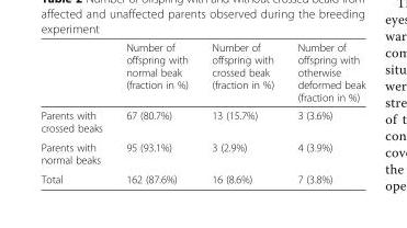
<table><thead><tr><td></td><td>Number of offspring with normal beak (fraction in %)</td><td>Number of offspring with crossed beak (fraction in %)</td><td>Number of offspring with otherwise deformed beak (fraction in %)</td></tr></thead><tbody><tr><td>Parents with crossed beaks</td><td>67 (80.7%)</td><td>13 (15.7%)</td><td>3 (3.6%)</td></tr><tr><td>Parents with normal beaks</td><td>95 (93.1%)</td><td>3 (2.9%)</td><td>4 (3.9%)</td></tr><tr><td>Total</td><td>162 (87.6%)</td><td>16 (8.6%)</td><td>7 (3.8%)</td></tr></tbody></table>